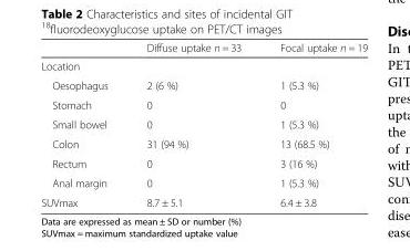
<table><thead><tr><td></td><td>Diffuse uptake n = 33</td><td>Focal uptake n = 19</td></tr></thead><tbody><tr><td colspan="3">Location</td></tr><tr><td>Oesophagus</td><td>2 (6 %)</td><td>1 (5.3 %)</td></tr><tr><td>Stomach</td><td>0</td><td>0</td></tr><tr><td>Small bowel</td><td>0</td><td>1 (5.3 %)</td></tr><tr><td>Colon</td><td>31 (94 %)</td><td>13 (68.5 %)</td></tr><tr><td>Rectum</td><td>0</td><td>3 (16 %)</td></tr><tr><td>Anal margin</td><td>0</td><td>1 (5.3 %)</td></tr><tr><td>SUVmax</td><td>8.7 ± 5.1</td><td>6.4 ± 3.8</td></tr></tbody></table>